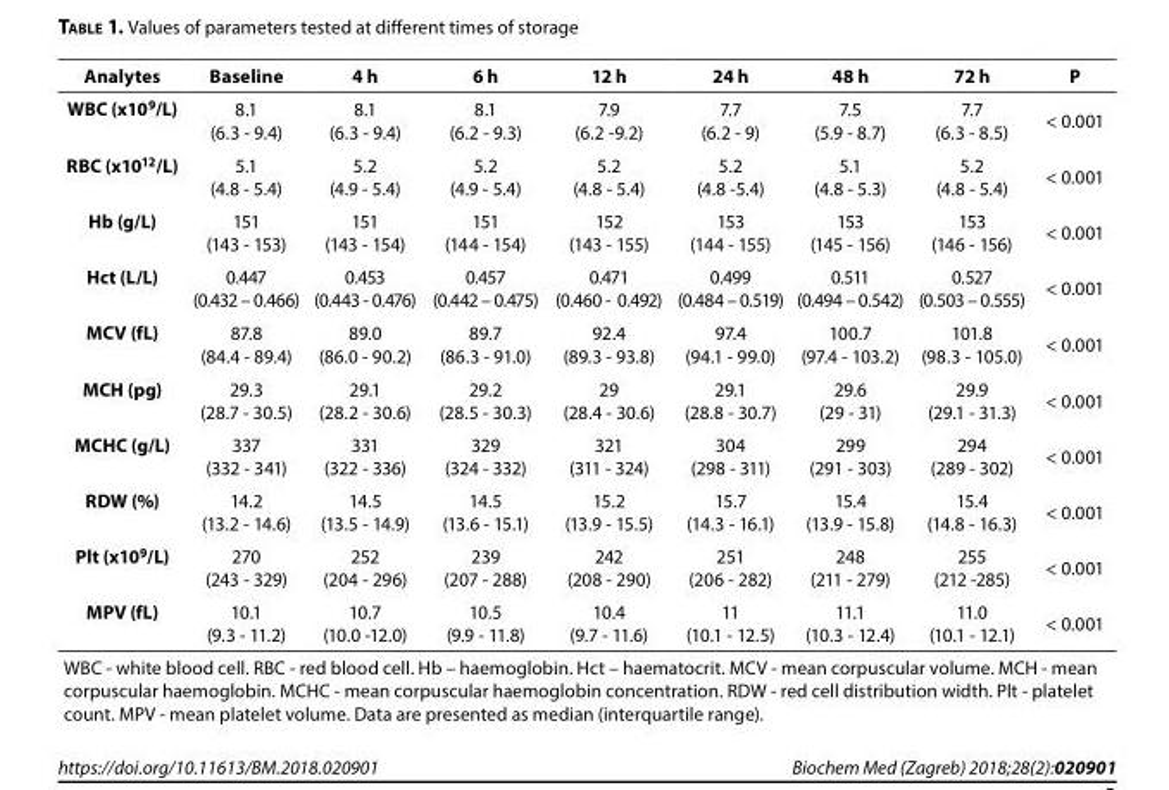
<table><thead><tr><td>Analytes</td><td>Baseline</td><td>4 h</td><td>6 h</td><td>12 h</td><td>24 h</td><td>48 h</td><td>72 h</td><td>P</td></tr></thead><tbody><tr><td>WBC (x10<sup>9</sup>/L)</td><td>8.1 (6.3 - 9.4)</td><td>8.1 (6.3 - 9.4)</td><td>8.1 (6.2 - 9.3)</td><td>7.9 (6.2 -9.2)</td><td>7.7 (6.2 - 9)</td><td>7.5 (5.9 - 8.7)</td><td>7.7 (6.3 - 8.5)</td><td>&lt; 0.001</td></tr><tr><td>RBC (x10<sup>12</sup>/L)</td><td>5.1 (4.8 - 5.4)</td><td>5.2 (4.9 - 5.4)</td><td>5.2 (4.9 - 5.4)</td><td>5.2 (4.8 - 5.4)</td><td>5.2 (4.8 -5.4)</td><td>5.1 (4.8 - 5.3)</td><td>5.2 (4.8 - 5.4)</td><td>&lt; 0.001</td></tr><tr><td>Hb (g/L)</td><td>151 (143 - 153)</td><td>151 (143 - 154)</td><td>151 (144 - 154)</td><td>152 (143 - 155)</td><td>153 (144 - 155)</td><td>153 (145 - 156)</td><td>153 (146 - 156)</td><td>&lt; 0.001</td></tr><tr><td>Hct (L/L)</td><td>0.447 (0.432 – 0.466)</td><td>0.453 (0.443 - 0.476)</td><td>0.457 (0.442 – 0.475)</td><td>0.471 (0.460 - 0.492)</td><td>0.499 (0.484 – 0.519)</td><td>0.511 (0.494 – 0.542)</td><td>0.527 (0.503 – 0.555)</td><td>&lt; 0.001</td></tr><tr><td>MCV (fL)</td><td>87.8 (84.4 - 89.4)</td><td>89.0 (86.0 - 90.2)</td><td>89.7 (86.3 - 91.0)</td><td>92.4 (89.3 - 93.8)</td><td>97.4 (94.1 - 99.0)</td><td>100.7 (97.4 - 103.2)</td><td>101.8 (98.3 - 105.0)</td><td>&lt; 0.001</td></tr><tr><td>MCH (pg)</td><td>29.3 (28.7 - 30.5)</td><td>29.1 (28.2 - 30.6)</td><td>29.2 (28.5 - 30.3)</td><td>29 (28.4 - 30.6)</td><td>29.1 (28.8 - 30.7)</td><td>29.6 (29 - 31)</td><td>29.9 (29.1 - 31.3)</td><td>&lt; 0.001</td></tr><tr><td>MCHC (g/L)</td><td>337 (332 - 341)</td><td>331 (322 - 336)</td><td>329 (324 - 332)</td><td>321 (311 - 324)</td><td>304 (298 - 311)</td><td>299 (291 - 303)</td><td>294 (289 - 302)</td><td>&lt; 0.001</td></tr><tr><td>RDW (%)</td><td>14.2 (13.2 - 14.6)</td><td>14.5 (13.5 - 14.9)</td><td>14.5 (13.6 - 15.1)</td><td>15.2 (13.9 - 15.5)</td><td>15.7 (14.3 - 16.1)</td><td>15.4 (13.9 - 15.8)</td><td>15.4 (14.8 - 16.3)</td><td>&lt; 0.001</td></tr><tr><td>Plt (x10<sup>9</sup>/L)</td><td>270 (243 - 329)</td><td>252 (204 - 296)</td><td>239 (207 - 288)</td><td>242 (208 - 290)</td><td>251 (206 - 282)</td><td>248 (211 - 279)</td><td>255 (212 -285)</td><td>&lt; 0.001</td></tr><tr><td>MPV (fL)</td><td>10.1 (9.3 - 11.2)</td><td>10.7 (10.0 -12.0)</td><td>10.5 (9.9 - 11.8)</td><td>10.4 (9.7 - 11.6)</td><td>11 (10.1 - 12.5)</td><td>11.1 (10.3 - 12.4)</td><td>11.0 (10.1 - 12.1)</td><td>&lt; 0.001</td></tr><tr><td colspan="9">WBC - white blood cell. RBC - red blood cell. Hb – haemoglobin. Hct – haematocrit. MCV - mean corpuscular volume. MCH - mean corpuscular haemoglobin. MCHC - mean corpuscular haemoglobin concentration. RDW - red cell distribution width. Plt - platelet count. MPV - mean platelet volume. Data are presented as median (interquartile range).</td></tr></tbody></table>